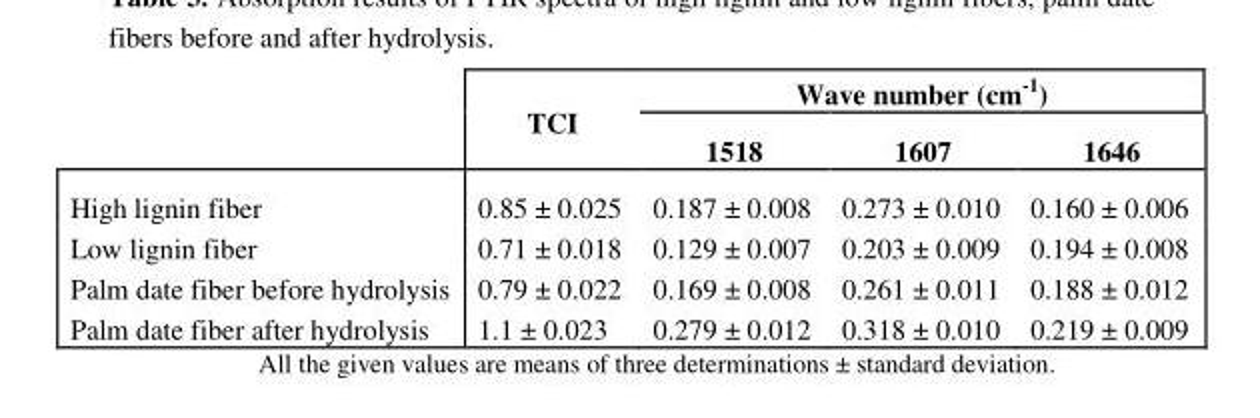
<table><thead><tr><td rowspan="2"></td><td rowspan="2">TCI</td><td colspan="3">Wave number (cm<sup>-1</sup>)</td></tr><tr><td>1518</td><td>1607</td><td>1646</td></tr></thead><tbody><tr><td>High lignin fiber</td><td>0.85 ± 0.025</td><td>0.187 ± 0.008</td><td>0.273 ± 0.010</td><td>0.160 ± 0.006</td></tr><tr><td>Low lignin fiber</td><td>0.71 ± 0.018</td><td>0.129 ± 0.007</td><td>0.203 ± 0.009</td><td>0.194 ± 0.008</td></tr><tr><td>Palm date fiber before hydrolysis</td><td>0.79 ± 0.022</td><td>0.169 ± 0.008</td><td>0.261 ± 0.011</td><td>0.188 ± 0.012</td></tr><tr><td>Palm date fiber after hydrolysis</td><td>1.1 ± 0.023</td><td>0.279 ± 0.012</td><td>0.318 ± 0.010</td><td>0.219 ± 0.009</td></tr></tbody></table>